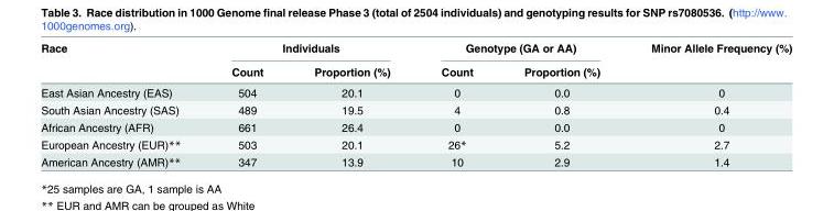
<table><thead><tr><td rowspan="2">Race</td><td colspan="2">Individuals</td><td colspan="2">Genotype (GA or AA)</td><td rowspan="2">Minor Allele Frequency (%)</td></tr><tr><td>Count</td><td>Proportion (%)</td><td>Count</td><td>Proportion (%)</td></tr></thead><tbody><tr><td>East Asian Ancestry (EAS)</td><td>504</td><td>20.1</td><td>0</td><td>0.0</td><td>0</td></tr><tr><td>South Asian Ancestry (SAS)</td><td>489</td><td>19.5</td><td>4</td><td>0.8</td><td>0.4</td></tr><tr><td>African Ancestry (AFR)</td><td>661</td><td>26.4</td><td>0</td><td>0.0</td><td>0</td></tr><tr><td>European Ancestry (EUR)**</td><td>503</td><td>20.1</td><td>26*</td><td>5.2</td><td>2.7</td></tr><tr><td>American Ancestry (AMR)**</td><td>347</td><td>13.9</td><td>10</td><td>2.9</td><td>1.4</td></tr></tbody></table>